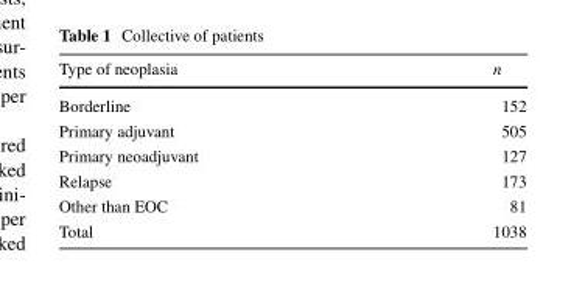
<table><thead><tr><td>Type of neoplasia</td><td>n</td></tr></thead><tbody><tr><td>Borderline</td><td>152</td></tr><tr><td>Primary adjuvant</td><td>505</td></tr><tr><td>Primary neoadjuvant</td><td>127</td></tr><tr><td>Relapse</td><td>173</td></tr><tr><td>Other than EOC</td><td>81</td></tr><tr><td>Total</td><td>1038</td></tr></tbody></table>